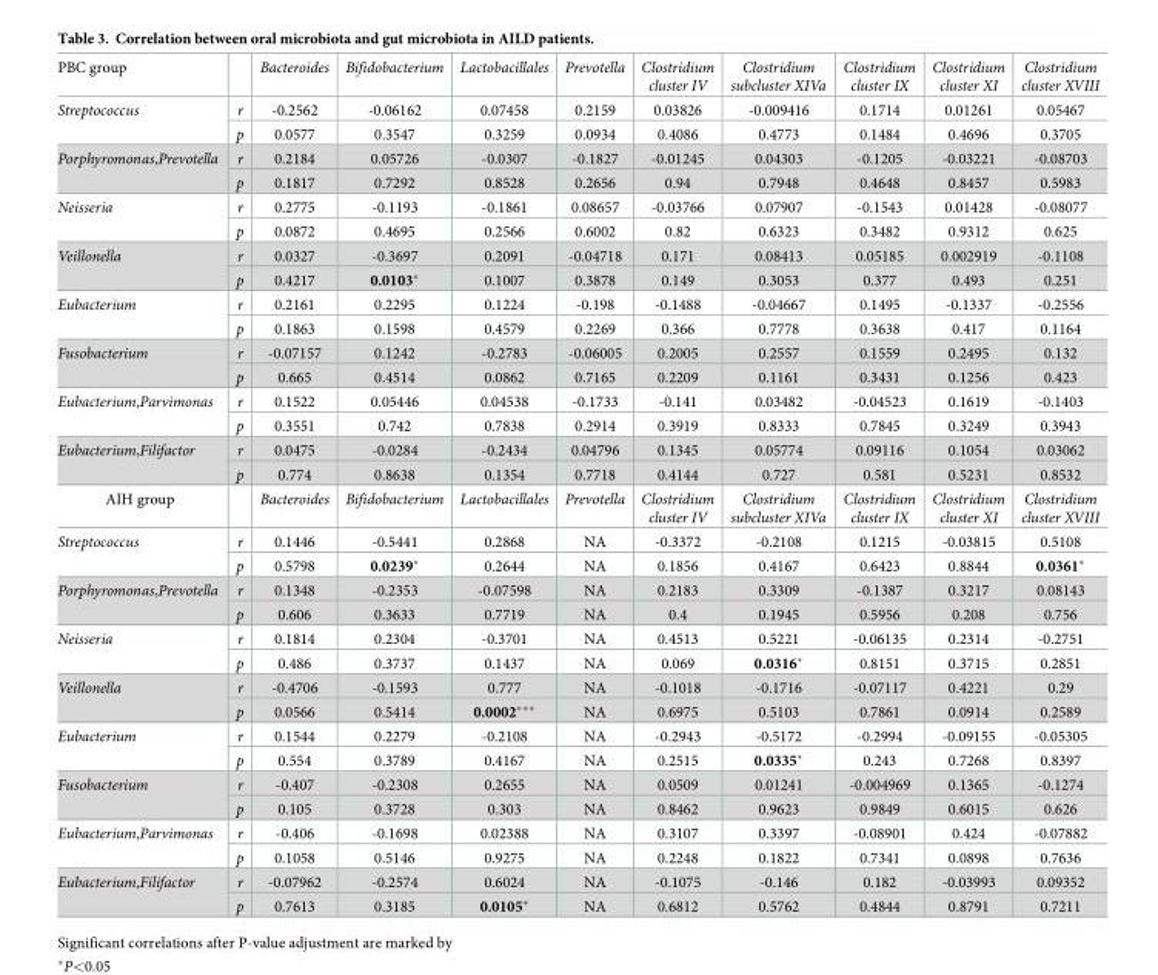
<table><tbody><tr><td>PBC group</td><td></td><td>Bacteroides</td><td>Bifidobacterium</td><td>Lactobacillales</td><td>Prevotella</td><td>Clostridium cluster IV</td><td>Clostridium subcluster XIVa</td><td>Clostridium cluster IX</td><td>Clostridium cluster XI</td><td>Clostridium cluster XVIII</td></tr><tr><td rowspan="2">Streptococcus</td><td>r</td><td>-0.2562</td><td>-0.06162</td><td>0.07458</td><td>0.2159</td><td>0.03826</td><td>-0.009416</td><td>0.1714</td><td>0.01261</td><td>0.05467</td></tr><tr><td>p</td><td>0.0577</td><td>0.3547</td><td>0.3259</td><td>0.0934</td><td>0.4086</td><td>0.4773</td><td>0.1484</td><td>0.4696</td><td>0.3705</td></tr><tr><td rowspan="2">Porphyromonas,Prevotella</td><td>r</td><td>0.2184</td><td>0.05726</td><td>-0.0307</td><td>-0.1827</td><td>-0.01245</td><td>0.04303</td><td>-0.1205</td><td>-0.03221</td><td>-0.08703</td></tr><tr><td>p</td><td>0.1817</td><td>0.7292</td><td>0.8528</td><td>0.2656</td><td>0.94</td><td>0.7948</td><td>0.4648</td><td>0.8457</td><td>0.5983</td></tr><tr><td rowspan="2">Neisseria</td><td>r</td><td>0.2775</td><td>-0.1193</td><td>-0.1861</td><td>0.08657</td><td>-0.03766</td><td>0.07907</td><td>-0.1543</td><td>0.01428</td><td>-0.08077</td></tr><tr><td>p</td><td>0.0872</td><td>0.4695</td><td>0.2566</td><td>0.6002</td><td>0.82</td><td>0.6323</td><td>0.3482</td><td>0.9312</td><td>0.625</td></tr><tr><td rowspan="2">Veillonella</td><td>r</td><td>0.0327</td><td>-0.3697</td><td>0.2091</td><td>-0.04718</td><td>0.171</td><td>0.08413</td><td>0.05185</td><td>0.002919</td><td>-0.1108</td></tr><tr><td>p</td><td>0.4217</td><td>0.0103*</td><td>0.1007</td><td>0.3878</td><td>0.149</td><td>0.3053</td><td>0.377</td><td>0.493</td><td>0.251</td></tr><tr><td rowspan="2">Eubacterium</td><td>r</td><td>0.2161</td><td>0.2295</td><td>0.1224</td><td>-0.198</td><td>-0.1488</td><td>-0.04667</td><td>0.1495</td><td>-0.1337</td><td>-0.2556</td></tr><tr><td>p</td><td>0.1863</td><td>0.1598</td><td>0.4579</td><td>0.2269</td><td>0.366</td><td>0.7778</td><td>0.3638</td><td>0.417</td><td>0.1164</td></tr><tr><td rowspan="2">Fusobacterium</td><td>r</td><td>-0.07157</td><td>0.1242</td><td>-0.2783</td><td>-0.06005</td><td>0.2005</td><td>0.2557</td><td>0.1559</td><td>0.2495</td><td>0.132</td></tr><tr><td>p</td><td>0.665</td><td>0.4514</td><td>0.0862</td><td>0.7165</td><td>0.2209</td><td>0.1161</td><td>0.3431</td><td>0.1256</td><td>0.423</td></tr><tr><td rowspan="2">Eubacterium,Parvimonas</td><td>r</td><td>0.1522</td><td>0.05446</td><td>0.04538</td><td>-0.1733</td><td>-0.141</td><td>0.03482</td><td>-0.04523</td><td>0.1619</td><td>-0.1403</td></tr><tr><td>p</td><td>0.3551</td><td>0.742</td><td>0.7838</td><td>0.2914</td><td>0.3919</td><td>0.8333</td><td>0.7845</td><td>0.3249</td><td>0.3943</td></tr><tr><td rowspan="2">Eubacterium,Filifactor</td><td>r</td><td>0.0475</td><td>-0.0284</td><td>-0.2434</td><td>0.04796</td><td>0.1345</td><td>0.05774</td><td>0.09116</td><td>0.1054</td><td>0.03062</td></tr><tr><td>p</td><td>0.774</td><td>0.8638</td><td>0.1354</td><td>0.7718</td><td>0.4144</td><td>0.727</td><td>0.581</td><td>0.5231</td><td>0.8532</td></tr><tr><td>AIH group</td><td></td><td>Bacteroides</td><td>Bifidobacterium</td><td>Lactobacillales</td><td>Prevotella</td><td>Clostridium cluster IV</td><td>Clostridium subcluster XIVa</td><td>Clostridium cluster IX</td><td>Clostridium cluster XI</td><td>Clostridium cluster XVIII</td></tr><tr><td rowspan="2">Streptococcus</td><td>r</td><td>0.1446</td><td>-0.5441</td><td>0.2868</td><td>NA</td><td>-0.3372</td><td>-0.2108</td><td>0.1215</td><td>-0.03815</td><td>0.5108</td></tr><tr><td>p</td><td>0.5798</td><td>0.0239*</td><td>0.2644</td><td>NA</td><td>0.1856</td><td>0.4167</td><td>0.6423</td><td>0.8844</td><td>0.0361*</td></tr><tr><td rowspan="2">Porphyromonas,Prevotella</td><td>r</td><td>0.1348</td><td>-0.2353</td><td>-0.07598</td><td>NA</td><td>0.2183</td><td>0.3309</td><td>-0.1387</td><td>0.3217</td><td>0.08143</td></tr><tr><td>p</td><td>0.606</td><td>0.3633</td><td>0.7719</td><td>NA</td><td>0.4</td><td>0.1945</td><td>0.5956</td><td>0.208</td><td>0.756</td></tr><tr><td rowspan="2">Neisseria</td><td>r</td><td>0.1814</td><td>0.2304</td><td>-0.3701</td><td>NA</td><td>0.4513</td><td>0.5221</td><td>-0.06135</td><td>0.2314</td><td>-0.2751</td></tr><tr><td>p</td><td>0.486</td><td>0.3737</td><td>0.1437</td><td>NA</td><td>0.069</td><td>0.0316*</td><td>0.8151</td><td>0.3715</td><td>0.2851</td></tr><tr><td rowspan="2">Veillonella</td><td>r</td><td>-0.4706</td><td>-0.1593</td><td>0.777</td><td>NA</td><td>-0.1018</td><td>-0.1716</td><td>-0.07117</td><td>0.4221</td><td>0.29</td></tr><tr><td>p</td><td>0.0566</td><td>0.5414</td><td>0.0002***</td><td>NA</td><td>0.6975</td><td>0.5103</td><td>0.7861</td><td>0.0914</td><td>0.2589</td></tr><tr><td rowspan="2">Eubacterium</td><td>r</td><td>0.1544</td><td>0.2279</td><td>-0.2108</td><td>NA</td><td>-0.2943</td><td>-0.5172</td><td>-0.2994</td><td>-0.09155</td><td>-0.05305</td></tr><tr><td>p</td><td>0.554</td><td>0.3789</td><td>0.4167</td><td>NA</td><td>0.2515</td><td>0.0335*</td><td>0.243</td><td>0.7268</td><td>0.8397</td></tr><tr><td rowspan="2">Fusobacterium</td><td>r</td><td>-0.407</td><td>-0.2308</td><td>0.2655</td><td>NA</td><td>0.0509</td><td>0.01241</td><td>-0.004969</td><td>0.1365</td><td>-0.1274</td></tr><tr><td>p</td><td>0.105</td><td>0.3728</td><td>0.303</td><td>NA</td><td>0.8462</td><td>0.9623</td><td>0.9849</td><td>0.6015</td><td>0.626</td></tr><tr><td rowspan="2">Eubacterium,Parvimonas</td><td>r</td><td>-0.406</td><td>-0.1698</td><td>0.02388</td><td>NA</td><td>0.3107</td><td>0.3397</td><td>-0.08901</td><td>0.424</td><td>-0.07882</td></tr><tr><td>p</td><td>0.1058</td><td>0.5146</td><td>0.9275</td><td>NA</td><td>0.2248</td><td>0.1822</td><td>0.7341</td><td>0.0898</td><td>0.7636</td></tr><tr><td rowspan="2">Eubacterium,Filifactor</td><td>r</td><td>-0.07962</td><td>-0.2574</td><td>0.6024</td><td>NA</td><td>-0.1075</td><td>-0.146</td><td>0.182</td><td>-0.03993</td><td>0.09352</td></tr><tr><td>p</td><td>0.7613</td><td>0.3185</td><td>0.0105*</td><td>NA</td><td>0.6812</td><td>0.5762</td><td>0.4844</td><td>0.8791</td><td>0.7211</td></tr></tbody></table>